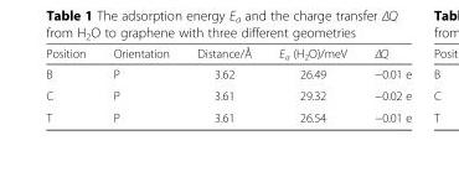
<table><thead><tr><td>Position</td><td>Orientation</td><td>Distance/Å</td><td>E<sub>a</sub> (H<sub>2</sub>O)/meV</td><td>ΔQ</td></tr></thead><tbody><tr><td>B</td><td>P</td><td>3.62</td><td>26.49</td><td>−0.01 e</td></tr><tr><td>C</td><td>P</td><td>3.61</td><td>29.32</td><td>−0.02 e</td></tr><tr><td>T</td><td>P</td><td>3.61</td><td>26.54</td><td>−0.01 e</td></tr></tbody></table>